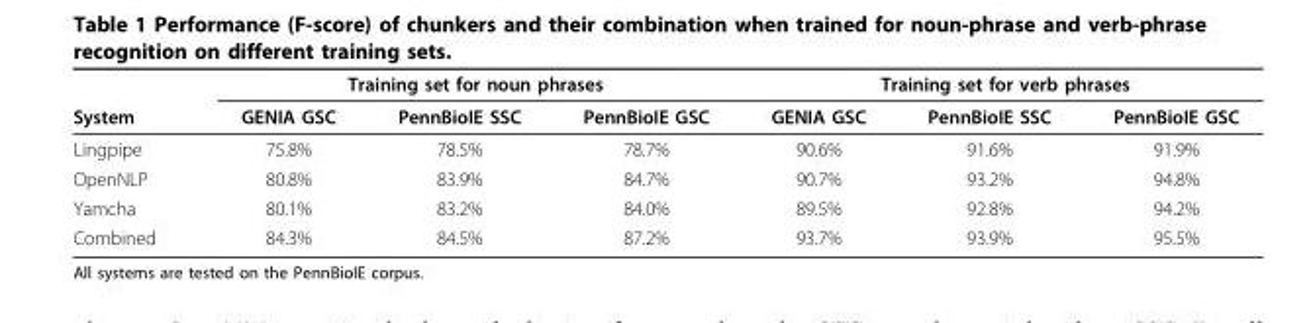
<table><thead><tr><td rowspan="2">System</td><td colspan="3">Training set for noun phrases</td><td colspan="3">Training set for verb phrases</td></tr><tr><td>GENIA GSC</td><td>PennBioIE SSC</td><td>PennBioIE GSC</td><td>GENIA GSC</td><td>PennBioIE SSC</td><td>PennBioIE GSC</td></tr></thead><tbody><tr><td>Lingpipe</td><td>75.8%</td><td>78.5%</td><td>78.7%</td><td>90.6%</td><td>91.6%</td><td>91.9%</td></tr><tr><td>OpenNLP</td><td>80.8%</td><td>83.9%</td><td>84.7%</td><td>90.7%</td><td>93.2%</td><td>94.8%</td></tr><tr><td>Yamcha</td><td>80.1%</td><td>83.2%</td><td>84.0%</td><td>89.5%</td><td>92.8%</td><td>94.2%</td></tr><tr><td>Combined</td><td>84.3%</td><td>84.5%</td><td>87.2%</td><td>93.7%</td><td>93.9%</td><td>95.5%</td></tr></tbody></table>